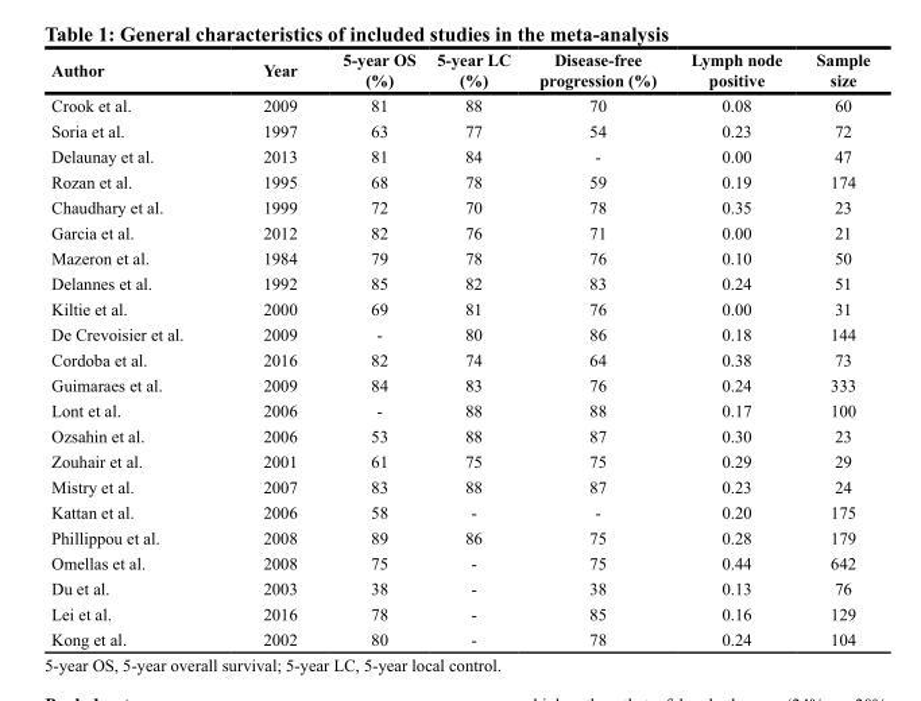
<table><thead><tr><td>Author</td><td>Year</td><td>5-year OS (%)</td><td>5-year LC (%)</td><td>Disease-free progression (%)</td><td>Lymph node positive</td><td>Sample size</td></tr></thead><tbody><tr><td>Crook et al.</td><td>2009</td><td>81</td><td>88</td><td>70</td><td>0.08</td><td>60</td></tr><tr><td>Soria et al.</td><td>1997</td><td>63</td><td>77</td><td>54</td><td>0.23</td><td>72</td></tr><tr><td>Delaunay et al.</td><td>2013</td><td>81</td><td>84</td><td>-</td><td>0.00</td><td>47</td></tr><tr><td>Rozan et al.</td><td>1995</td><td>68</td><td>78</td><td>59</td><td>0.19</td><td>174</td></tr><tr><td>Chaudhary et al.</td><td>1999</td><td>72</td><td>70</td><td>78</td><td>0.35</td><td>23</td></tr><tr><td>Garcia et al.</td><td>2012</td><td>82</td><td>76</td><td>71</td><td>0.00</td><td>21</td></tr><tr><td>Mazeron et al.</td><td>1984</td><td>79</td><td>78</td><td>76</td><td>0.10</td><td>50</td></tr><tr><td>Delannes et al.</td><td>1992</td><td>85</td><td>82</td><td>83</td><td>0.24</td><td>51</td></tr><tr><td>Kiltie et al.</td><td>2000</td><td>69</td><td>81</td><td>76</td><td>0.00</td><td>31</td></tr><tr><td>De Crevoisier et al.</td><td>2009</td><td>-</td><td>80</td><td>86</td><td>0.18</td><td>144</td></tr><tr><td>Cordoba et al.</td><td>2016</td><td>82</td><td>74</td><td>64</td><td>0.38</td><td>73</td></tr><tr><td>Guimaraes et al.</td><td>2009</td><td>84</td><td>83</td><td>76</td><td>0.24</td><td>333</td></tr><tr><td>Lont et al.</td><td>2006</td><td>-</td><td>88</td><td>88</td><td>0.17</td><td>100</td></tr><tr><td>Ozsahin et al.</td><td>2006</td><td>53</td><td>88</td><td>87</td><td>0.30</td><td>23</td></tr><tr><td>Zouhair et al.</td><td>2001</td><td>61</td><td>75</td><td>75</td><td>0.29</td><td>29</td></tr><tr><td>Mistry et al.</td><td>2007</td><td>83</td><td>88</td><td>87</td><td>0.23</td><td>24</td></tr><tr><td>Kattan et al.</td><td>2006</td><td>58</td><td>-</td><td>-</td><td>0.20</td><td>175</td></tr><tr><td>Phillippou et al.</td><td>2008</td><td>89</td><td>86</td><td>75</td><td>0.28</td><td>179</td></tr><tr><td>Omellas et al.</td><td>2008</td><td>75</td><td>-</td><td>75</td><td>0.44</td><td>642</td></tr><tr><td>Du et al.</td><td>2003</td><td>38</td><td>-</td><td>38</td><td>0.13</td><td>76</td></tr><tr><td>Lei et al.</td><td>2016</td><td>78</td><td>-</td><td>85</td><td>0.16</td><td>129</td></tr><tr><td>Kong et al.</td><td>2002</td><td>80</td><td>-</td><td>78</td><td>0.24</td><td>104</td></tr></tbody></table>